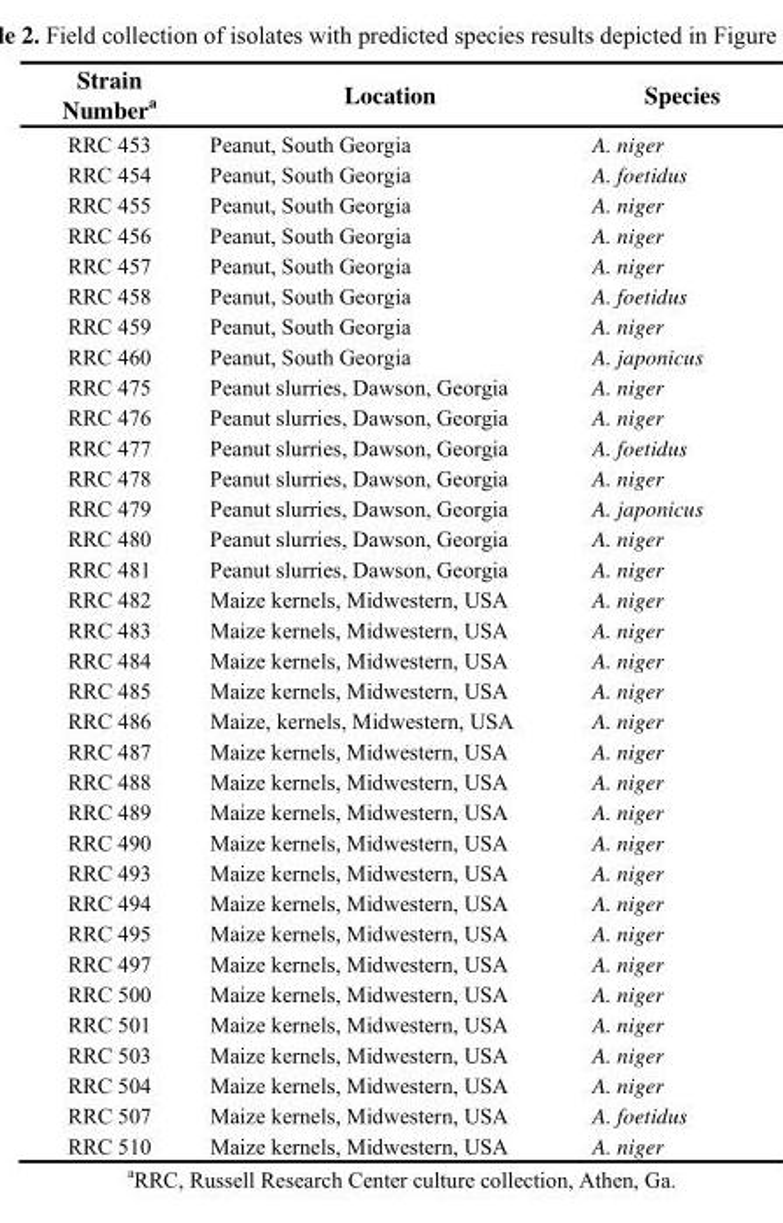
<table><thead><tr><td>Strain Number<sup>a</sup></td><td>Location</td><td>Species</td></tr></thead><tbody><tr><td>RRC 453</td><td>Peanut, South Georgia</td><td>A. niger</td></tr><tr><td>RRC 454</td><td>Peanut, South Georgia</td><td>A. foetidus</td></tr><tr><td>RRC 455</td><td>Peanut, South Georgia</td><td>A. niger</td></tr><tr><td>RRC 456</td><td>Peanut, South Georgia</td><td>A. niger</td></tr><tr><td>RRC 457</td><td>Peanut, South Georgia</td><td>A. niger</td></tr><tr><td>RRC 458</td><td>Peanut, South Georgia</td><td>A. foetidus</td></tr><tr><td>RRC 459</td><td>Peanut, South Georgia</td><td>A. niger</td></tr><tr><td>RRC 460</td><td>Peanut, South Georgia</td><td>A. japonicus</td></tr><tr><td>RRC 475</td><td>Peanut slurries, Dawson, Georgia</td><td>A. niger</td></tr><tr><td>RRC 476</td><td>Peanut slurries, Dawson, Georgia</td><td>A. niger</td></tr><tr><td>RRC 477</td><td>Peanut slurries, Dawson, Georgia</td><td>A. foetidus</td></tr><tr><td>RRC 478</td><td>Peanut slurries, Dawson, Georgia</td><td>A. niger</td></tr><tr><td>RRC 479</td><td>Peanut slurries, Dawson, Georgia</td><td>A. japonicus</td></tr><tr><td>RRC 480</td><td>Peanut slurries, Dawson, Georgia</td><td>A. niger</td></tr><tr><td>RRC 481</td><td>Peanut slurries, Dawson, Georgia</td><td>A. niger</td></tr><tr><td>RRC 482</td><td>Maize kernels, Midwestern, USA</td><td>A. niger</td></tr><tr><td>RRC 483</td><td>Maize kernels, Midwestern, USA</td><td>A. niger</td></tr><tr><td>RRC 484</td><td>Maize kernels, Midwestern, USA</td><td>A. niger</td></tr><tr><td>RRC 485</td><td>Maize kernels, Midwestern, USA</td><td>A. niger</td></tr><tr><td>RRC 486</td><td>Maize, kernels, Midwestern, USA</td><td>A. niger</td></tr><tr><td>RRC 487</td><td>Maize kernels, Midwestern, USA</td><td>A. niger</td></tr><tr><td>RRC 488</td><td>Maize kernels, Midwestern, USA</td><td>A. niger</td></tr><tr><td>RRC 489</td><td>Maize kernels, Midwestern, USA</td><td>A. niger</td></tr><tr><td>RRC 490</td><td>Maize kernels, Midwestern, USA</td><td>A. niger</td></tr><tr><td>RRC 493</td><td>Maize kernels, Midwestern, USA</td><td>A. niger</td></tr><tr><td>RRC 494</td><td>Maize kernels, Midwestern, USA</td><td>A. niger</td></tr><tr><td>RRC 495</td><td>Maize kernels, Midwestern, USA</td><td>A. niger</td></tr><tr><td>RRC 497</td><td>Maize kernels, Midwestern, USA</td><td>A. niger</td></tr><tr><td>RRC 500</td><td>Maize kernels, Midwestern, USA</td><td>A. niger</td></tr><tr><td>RRC 501</td><td>Maize kernels, Midwestern, USA</td><td>A. niger</td></tr><tr><td>RRC 503</td><td>Maize kernels, Midwestern, USA</td><td>A. niger</td></tr><tr><td>RRC 504</td><td>Maize kernels, Midwestern, USA</td><td>A. niger</td></tr><tr><td>RRC 507</td><td>Maize kernels, Midwestern, USA</td><td>A. foetidus</td></tr><tr><td>RRC 510</td><td>Maize kernels, Midwestern, USA</td><td>A. niger</td></tr></tbody></table>